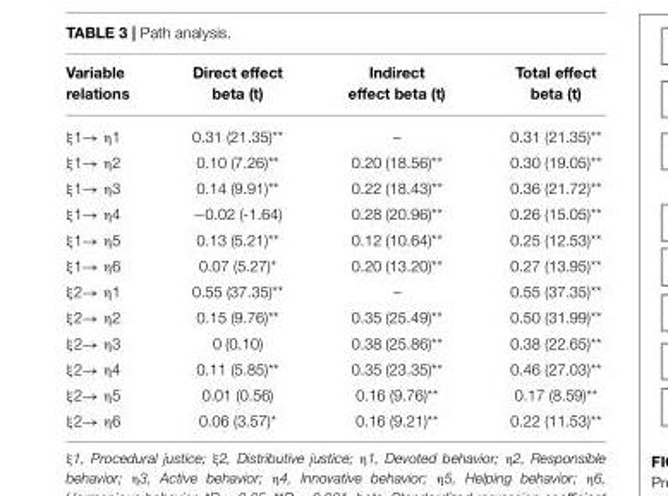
<table><thead><tr><td>Variable relations</td><td>Direct effect beta (t)</td><td>Indirect effect beta (t)</td><td>Total effect beta (t)</td></tr></thead><tbody><tr><td>ξ1→ η1</td><td>0.31 (21.35)**</td><td>–</td><td>0.31 (21.35)**</td></tr><tr><td>ξ1→ η2</td><td>0.10 (7.26)**</td><td>0.20 (18.56)**</td><td>0.30 (19.05)**</td></tr><tr><td>ξ1→ η3</td><td>0.14 (9.91)**</td><td>0.22 (18.43)**</td><td>0.36 (21.72)**</td></tr><tr><td>ξ1→ η4</td><td>−0.02 (-1.64)</td><td>0.28 (20.96)**</td><td>0.26 (15.05)**</td></tr><tr><td>ξ1→ η5</td><td>0.13 (5.21)**</td><td>0.12 (10.64)**</td><td>0.25 (12.53)**</td></tr><tr><td>ξ1→ η6</td><td>0.07 (5.27)*</td><td>0.20 (13.20)**</td><td>0.27 (13.95)**</td></tr><tr><td>ξ2→ η1</td><td>0.55 (37.35)**</td><td>–</td><td>0.55 (37.35)**</td></tr><tr><td>ξ2→ η2</td><td>0.15 (9.76)**</td><td>0.35 (25.49)**</td><td>0.50 (31.99)**</td></tr><tr><td>ξ2→ η3</td><td>0 (0.10)</td><td>0.38 (25.86)**</td><td>0.38 (22.65)**</td></tr><tr><td>ξ2→ η4</td><td>0.11 (5.85)**</td><td>0.35 (23.35)**</td><td>0.46 (27.03)**</td></tr><tr><td>ξ2→ η5</td><td>0.01 (0.56)</td><td>0.16 (9.76)**</td><td>0.17 (8.59)**</td></tr><tr><td>ξ2→ η6</td><td>0.06 (3.57)*</td><td>0.16 (9.21)**</td><td>0.22 (11.53)**</td></tr></tbody></table>